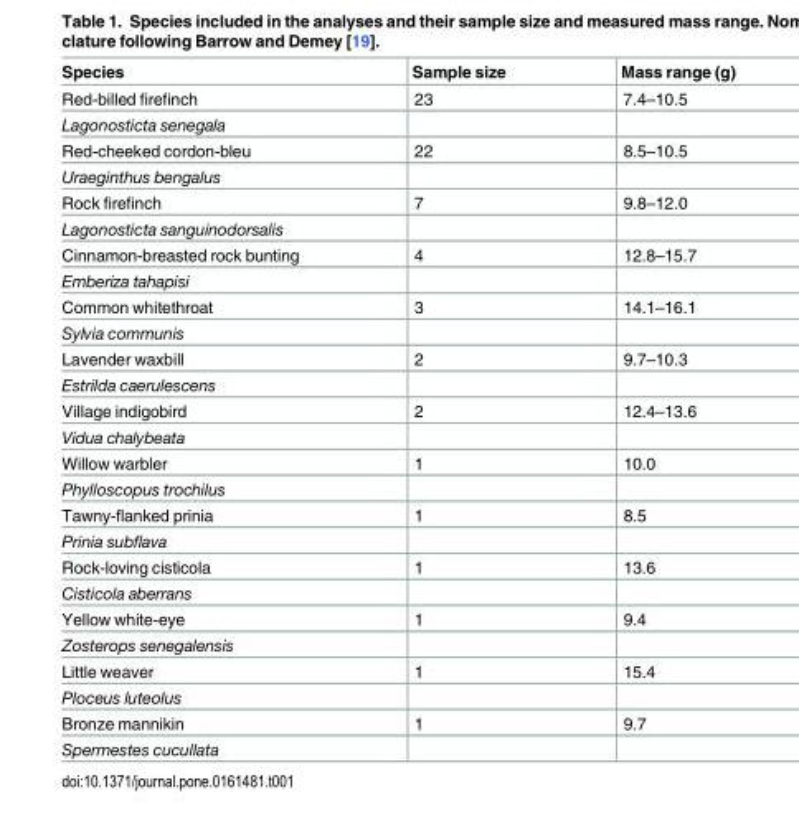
<table><thead><tr><td>Species</td><td>Sample size</td><td>Mass range (g)</td></tr></thead><tbody><tr><td>Red-billed firefinch</td><td>23</td><td>7.4–10.5</td></tr><tr><td colspan="3">Lagonosticta senegala</td></tr><tr><td>Red-cheeked cordon-bleu</td><td>22</td><td>8.5–10.5</td></tr><tr><td colspan="3">Uraeginthus bengalus</td></tr><tr><td>Rock firefinch</td><td>7</td><td>9.8–12.0</td></tr><tr><td colspan="3">Lagonosticta sanguinodorsalis</td></tr><tr><td>Cinnamon-breasted rock bunting</td><td>4</td><td>12.8–15.7</td></tr><tr><td colspan="3">Emberiza tahapisi</td></tr><tr><td>Common whitethroat</td><td>3</td><td>14.1–16.1</td></tr><tr><td colspan="3">Sylvia communis</td></tr><tr><td>Lavender waxbill</td><td>2</td><td>9.7–10.3</td></tr><tr><td colspan="3">Estrilda caerulescens</td></tr><tr><td>Village indigobird</td><td>2</td><td>12.4–13.6</td></tr><tr><td colspan="3">Vidua chalybeata</td></tr><tr><td>Willow warbler</td><td>1</td><td>10.0</td></tr><tr><td colspan="3">Phylloscopus trochilus</td></tr><tr><td>Tawny-flanked prinia</td><td>1</td><td>8.5</td></tr><tr><td colspan="3">Prinia subflava</td></tr><tr><td>Rock-loving cisticola</td><td>1</td><td>13.6</td></tr><tr><td colspan="3">Cisticola aberrans</td></tr><tr><td>Yellow white-eye</td><td>1</td><td>9.4</td></tr><tr><td colspan="3">Zosterops senegalensis</td></tr><tr><td>Little weaver</td><td>1</td><td>15.4</td></tr><tr><td colspan="3">Ploceus luteolus</td></tr><tr><td>Bronze mannikin</td><td>1</td><td>9.7</td></tr><tr><td>Spermestes cucullata</td><td></td><td></td></tr></tbody></table>